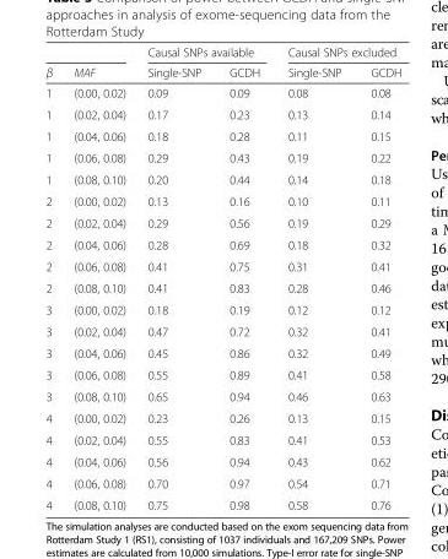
<table><thead><tr><td rowspan="2">β</td><td rowspan="2">MAF</td><td colspan="2">Causal SNPs available</td><td colspan="2">Causal SNPs excluded</td></tr><tr><td>Single-SNP</td><td>GCDH</td><td>Single-SNP</td><td>GCDH</td></tr></thead><tbody><tr><td>1</td><td>(0.00, 0.02)</td><td>0.09</td><td>0.09</td><td>0.08</td><td>0.08</td></tr><tr><td>1</td><td>(0.02, 0.04)</td><td>0.17</td><td>0.23</td><td>0.13</td><td>0.14</td></tr><tr><td>1</td><td>(0.04, 0.06)</td><td>0.18</td><td>0.28</td><td>0.11</td><td>0.15</td></tr><tr><td>1</td><td>(0.06, 0.08)</td><td>0.29</td><td>0.43</td><td>0.19</td><td>0.22</td></tr><tr><td>1</td><td>(0.08, 0.10)</td><td>0.20</td><td>0.44</td><td>0.14</td><td>0.18</td></tr><tr><td>2</td><td>(0.00, 0.02)</td><td>0.13</td><td>0.16</td><td>0.10</td><td>0.11</td></tr><tr><td>2</td><td>(0.02, 0.04)</td><td>0.29</td><td>0.56</td><td>0.19</td><td>0.29</td></tr><tr><td>2</td><td>(0.04, 0.06)</td><td>0.28</td><td>0.69</td><td>0.18</td><td>0.32</td></tr><tr><td>2</td><td>(0.06, 0.08)</td><td>0.41</td><td>0.75</td><td>0.31</td><td>0.41</td></tr><tr><td>2</td><td>(0.08, 0.10)</td><td>0.41</td><td>0.83</td><td>0.28</td><td>0.46</td></tr><tr><td>3</td><td>(0.00, 0.02)</td><td>0.18</td><td>0.19</td><td>0.12</td><td>0.12</td></tr><tr><td>3</td><td>(0.02, 0.04)</td><td>0.47</td><td>0.72</td><td>0.32</td><td>0.41</td></tr><tr><td>3</td><td>(0.04, 0.06)</td><td>0.45</td><td>0.86</td><td>0.32</td><td>0.49</td></tr><tr><td>3</td><td>(0.06, 0.08)</td><td>0.55</td><td>0.89</td><td>0.41</td><td>0.58</td></tr><tr><td>3</td><td>(0.08, 0.10)</td><td>0.65</td><td>0.94</td><td>0.46</td><td>0.63</td></tr><tr><td>4</td><td>(0.00, 0.02)</td><td>0.23</td><td>0.26</td><td>0.13</td><td>0.15</td></tr><tr><td>4</td><td>(0.02, 0.04)</td><td>0.55</td><td>0.83</td><td>0.41</td><td>0.53</td></tr><tr><td>4</td><td>(0.04, 0.06)</td><td>0.56</td><td>0.94</td><td>0.43</td><td>0.62</td></tr><tr><td>4</td><td>(0.06, 0.08)</td><td>0.70</td><td>0.97</td><td>0.54</td><td>0.71</td></tr><tr><td>4</td><td>(0.08, 0.10)</td><td>0.75</td><td>0.98</td><td>0.58</td><td>0.76</td></tr></tbody></table>